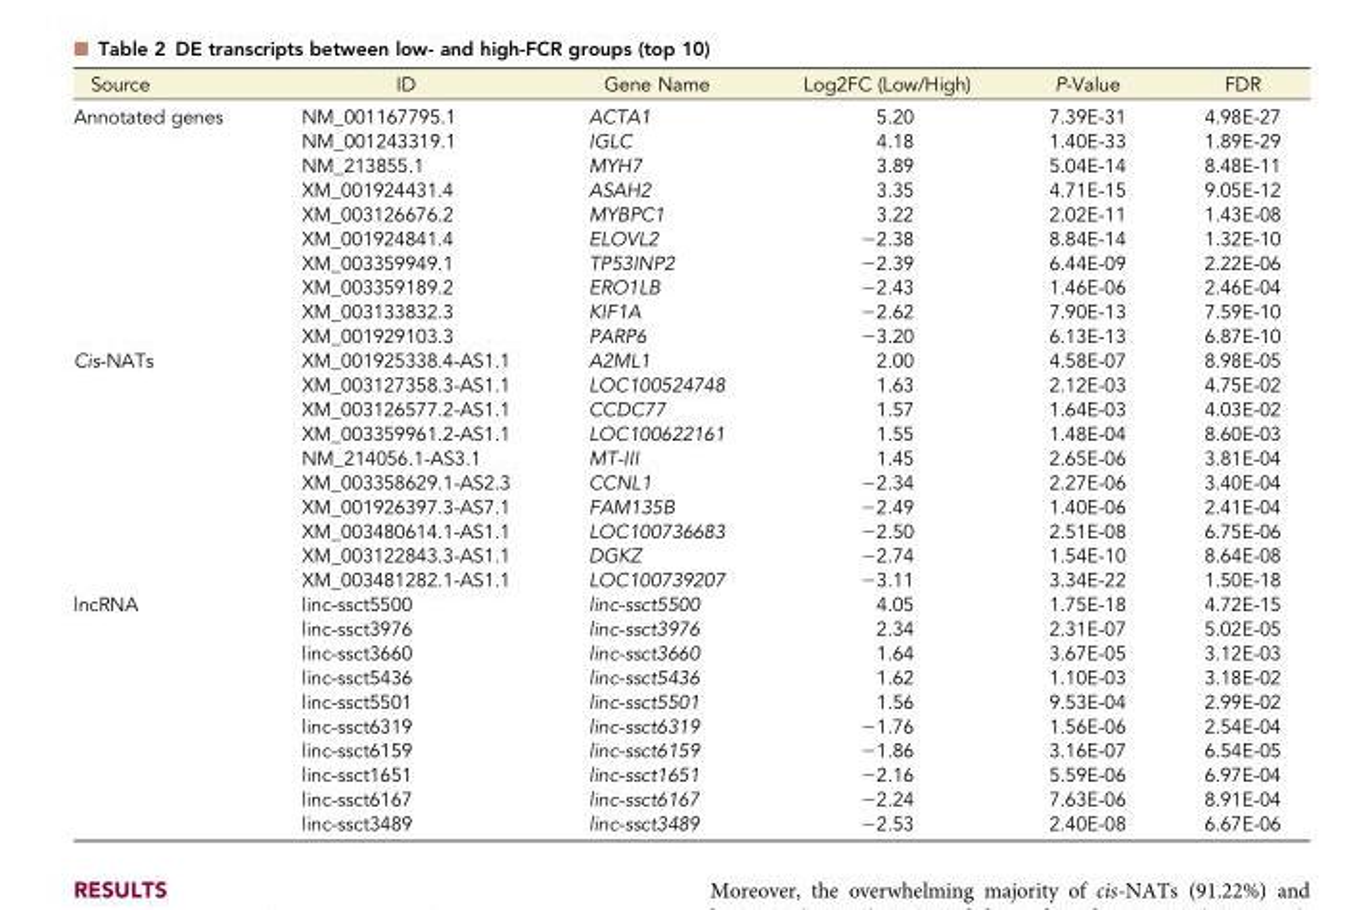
<table><thead><tr><td>Source</td><td>ID</td><td>Gene Name</td><td>Log2FC (Low/High)</td><td>P-Value</td><td>FDR</td></tr></thead><tbody><tr><td rowspan="10">Annotated genes</td><td>NM_001167795.1</td><td>ACTA1</td><td>5.20</td><td>7.39E-31</td><td>4.98E-27</td></tr><tr><td>NM_001243319.1</td><td>IGLC</td><td>4.18</td><td>1.40E-33</td><td>1.89E-29</td></tr><tr><td>NM_213855.1</td><td>MYH7</td><td>3.89</td><td>5.04E-14</td><td>8.48E-11</td></tr><tr><td>XM_001924431.4</td><td>ASAH2</td><td>3.35</td><td>4.71E-15</td><td>9.05E-12</td></tr><tr><td>XM_003126676.2</td><td>MYBPC1</td><td>3.22</td><td>2.02E-11</td><td>1.43E-08</td></tr><tr><td>XM_001924841.4</td><td>ELOVL2</td><td>−2.38</td><td>8.84E-14</td><td>1.32E-10</td></tr><tr><td>XM_003359949.1</td><td>TP53INP2</td><td>−2.39</td><td>6.44E-09</td><td>2.22E-06</td></tr><tr><td>XM_003359189.2</td><td>ERO1LB</td><td>−2.43</td><td>1.46E-06</td><td>2.46E-04</td></tr><tr><td>XM_003133832.3</td><td>KIF1A</td><td>−2.62</td><td>7.90E-13</td><td>7.59E-10</td></tr><tr><td>XM_001929103.3</td><td>PARP6</td><td>−3.20</td><td>6.13E-13</td><td>6.87E-10</td></tr><tr><td rowspan="10">Cis-NATs</td><td>XM_001925338.4-AS1.1</td><td>A2ML1</td><td>2.00</td><td>4.58E-07</td><td>8.98E-05</td></tr><tr><td>XM_003127358.3-AS1.1</td><td>LOC100524748</td><td>1.63</td><td>2.12E-03</td><td>4.75E-02</td></tr><tr><td>XM_003126577.2-AS1.1</td><td>CCDC77</td><td>1.57</td><td>1.64E-03</td><td>4.03E-02</td></tr><tr><td>XM_003359961.2-AS1.1</td><td>LOC100622161</td><td>1.55</td><td>1.48E-04</td><td>8.60E-03</td></tr><tr><td>NM_214056.1-AS3.1</td><td>MT-III</td><td>1.45</td><td>2.65E-06</td><td>3.81E-04</td></tr><tr><td>XM_003358629.1-AS2.3</td><td>CCNL1</td><td>−2.34</td><td>2.27E-06</td><td>3.40E-04</td></tr><tr><td>XM_001926397.3-AS7.1</td><td>FAM135B</td><td>−2.49</td><td>1.40E-06</td><td>2.41E-04</td></tr><tr><td>XM_003480614.1-AS1.1</td><td>LOC100736683</td><td>−2.50</td><td>2.51E-08</td><td>6.75E-06</td></tr><tr><td>XM_003122843.3-AS1.1</td><td>DGKZ</td><td>−2.74</td><td>1.54E-10</td><td>8.64E-08</td></tr><tr><td>XM_003481282.1-AS1.1</td><td>LOC100739207</td><td>−3.11</td><td>3.34E-22</td><td>1.50E-18</td></tr><tr><td rowspan="10">lncRNA</td><td>linc-ssct5500</td><td>linc-ssct5500</td><td>4.05</td><td>1.75E-18</td><td>4.72E-15</td></tr><tr><td>linc-ssct3976</td><td>linc-ssct3976</td><td>2.34</td><td>2.31E-07</td><td>5.02E-05</td></tr><tr><td>linc-ssct3660</td><td>linc-ssct3660</td><td>1.64</td><td>3.67E-05</td><td>3.12E-03</td></tr><tr><td>linc-ssct5436</td><td>linc-ssct5436</td><td>1.62</td><td>1.10E-03</td><td>3.18E-02</td></tr><tr><td>linc-ssct5501</td><td>linc-ssct5501</td><td>1.56</td><td>9.53E-04</td><td>2.99E-02</td></tr><tr><td>linc-ssct6319</td><td>linc-ssct6319</td><td>−1.76</td><td>1.56E-06</td><td>2.54E-04</td></tr><tr><td>linc-ssct6159</td><td>linc-ssct6159</td><td>−1.86</td><td>3.16E-07</td><td>6.54E-05</td></tr><tr><td>linc-ssct1651</td><td>linc-ssct1651</td><td>−2.16</td><td>5.59E-06</td><td>6.97E-04</td></tr><tr><td>linc-ssct6167</td><td>linc-ssct6167</td><td>−2.24</td><td>7.63E-06</td><td>8.91E-04</td></tr><tr><td>linc-ssct3489</td><td>linc-ssct3489</td><td>−2.53</td><td>2.40E-08</td><td>6.67E-06</td></tr></tbody></table>